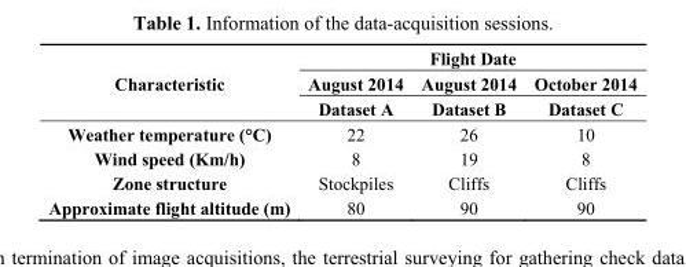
<table><thead><tr><td rowspan="3">Characteristic</td><td colspan="3">Flight Date</td></tr><tr><td rowspan="2">August 2014 Dataset A</td><td rowspan="2">August 2014 Dataset B</td><td rowspan="2">October 2014 Dataset C</td></tr><tr></tr></thead><tbody><tr><td>Weather temperature (°C)</td><td>22</td><td>26</td><td>10</td></tr><tr><td>Wind speed (Km/h)</td><td>8</td><td>19</td><td>8</td></tr><tr><td>Zone structure</td><td>Stockpiles</td><td>Cliffs</td><td>Cliffs</td></tr><tr><td>Approximate flight altitude (m)</td><td>80</td><td>90</td><td>90</td></tr></tbody></table>